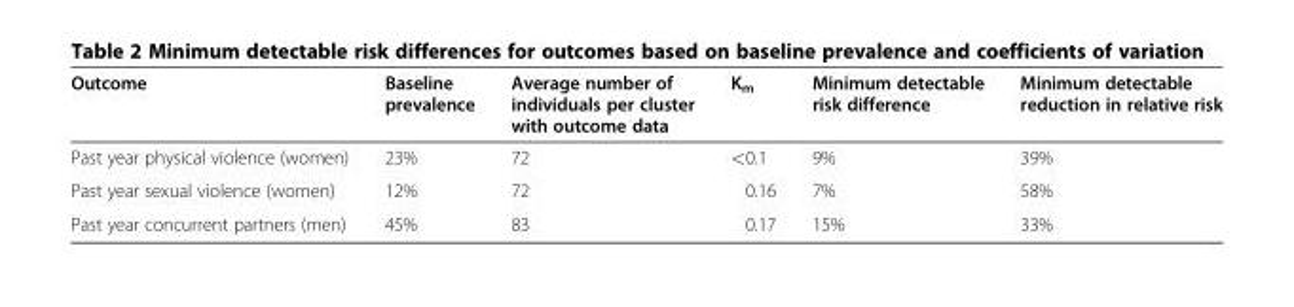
<table><thead><tr><td>Outcome</td><td>Baseline prevalence</td><td>Average number of individuals per cluster with outcome data</td><td>K<sub>m</sub></td><td>Minimum detectable risk difference</td><td>Minimum detectable reduction in relative risk</td></tr></thead><tbody><tr><td>Past year physical violence (women)</td><td>23%</td><td>72</td><td>&lt;0.1</td><td>9%</td><td>39%</td></tr><tr><td>Past year sexual violence (women)</td><td>12%</td><td>72</td><td>0.16</td><td>7%</td><td>58%</td></tr><tr><td>Past year concurrent partners (men)</td><td>45%</td><td>83</td><td>0.17</td><td>15%</td><td>33%</td></tr></tbody></table>